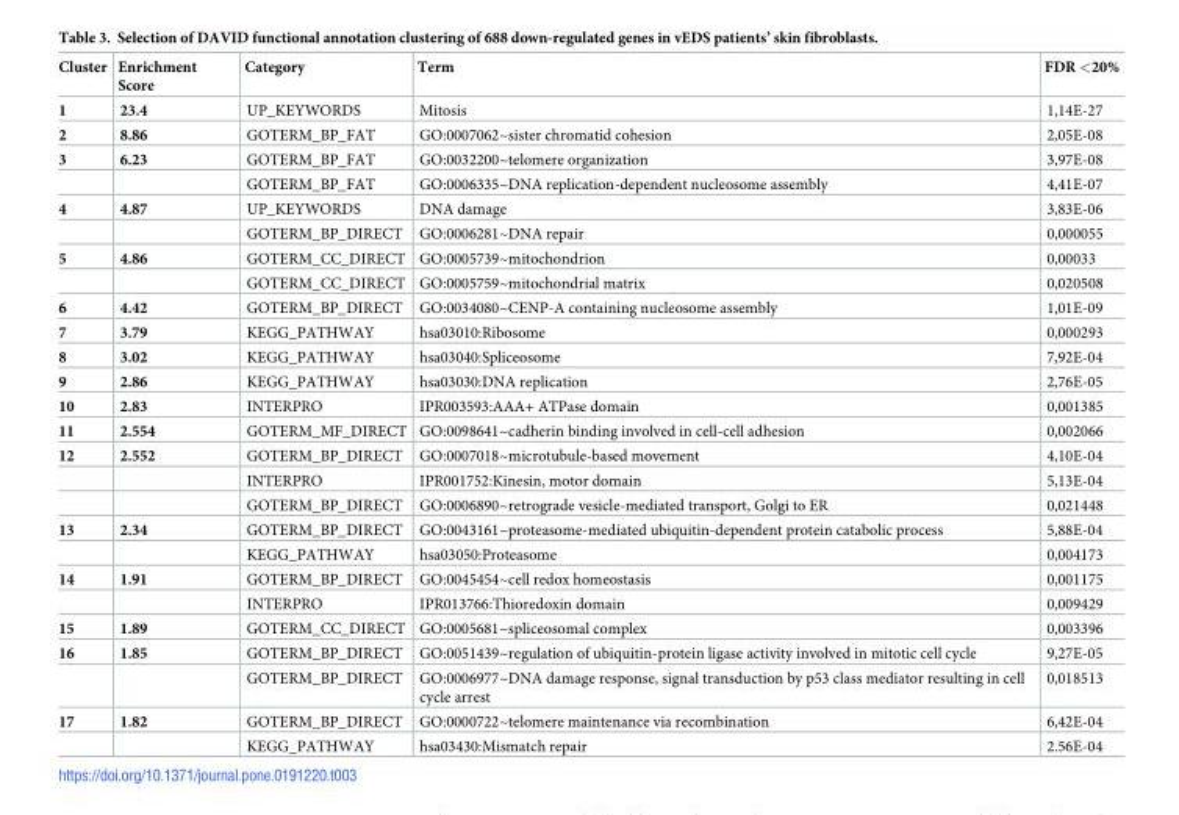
<table><thead><tr><td>Cluster</td><td>Enrichment Score</td><td>Category</td><td>Term</td><td>FDR &lt;20%</td></tr></thead><tbody><tr><td>1</td><td>23.4</td><td>UP_KEYWORDS</td><td>Mitosis</td><td>1,14E-27</td></tr><tr><td>2</td><td>8.86</td><td>GOTERM_BP_FAT</td><td>GO:0007062~sister chromatid cohesion</td><td>2,05E-08</td></tr><tr><td rowspan="2">3</td><td>6.23</td><td>GOTERM_BP_FAT</td><td>GO:0032200~telomere organization</td><td>3,97E-08</td></tr><tr><td></td><td>GOTERM_BP_FAT</td><td>GO:0006335~DNA replication-dependent nucleosome assembly</td><td>4,41E-07</td></tr><tr><td rowspan="2">4</td><td>4.87</td><td>UP_KEYWORDS</td><td>DNA damage</td><td>3,83E-06</td></tr><tr><td></td><td>GOTERM_BP_DIRECT</td><td>GO:0006281~DNA repair</td><td>0,000055</td></tr><tr><td rowspan="2">5</td><td>4.86</td><td>GOTERM_CC_DIRECT</td><td>GO:0005739~mitochondrion</td><td>0,00033</td></tr><tr><td></td><td>GOTERM_CC_DIRECT</td><td>GO:0005759~mitochondrial matrix</td><td>0,020508</td></tr><tr><td>6</td><td>4.42</td><td>GOTERM_BP_DIRECT</td><td>GO:0034080~CENP-A containing nucleosome assembly</td><td>1,01E-09</td></tr><tr><td>7</td><td>3.79</td><td>KEGG_PATHWAY</td><td>hsa03010:Ribosome</td><td>0,000293</td></tr><tr><td>8</td><td>3.02</td><td>KEGG_PATHWAY</td><td>hsa03040:Spliceosome</td><td>7,92E-04</td></tr><tr><td>9</td><td>2.86</td><td>KEGG_PATHWAY</td><td>hsa03030:DNA replication</td><td>2,76E-05</td></tr><tr><td>10</td><td>2.83</td><td>INTERPRO</td><td>IPR003593:AAA+ ATPase domain</td><td>0,001385</td></tr><tr><td>11</td><td>2.554</td><td>GOTERM_MF_DIRECT</td><td>GO:0098641~cadherin binding involved in cell-cell adhesion</td><td>0,002066</td></tr><tr><td rowspan="3">12</td><td>2.552</td><td>GOTERM_BP_DIRECT</td><td>GO:0007018~microtubule-based movement</td><td>4,10E-04</td></tr><tr><td></td><td>INTERPRO</td><td>IPR001752:Kinesin, motor domain</td><td>5,13E-04</td></tr><tr><td></td><td>GOTERM_BP_DIRECT</td><td>GO:0006890~retrograde vesicle-mediated transport, Golgi to ER</td><td>0,021448</td></tr><tr><td rowspan="2">13</td><td>2.34</td><td>GOTERM_BP_DIRECT</td><td>GO:0043161~proteasome-mediated ubiquitin-dependent protein catabolic process</td><td>5,88E-04</td></tr><tr><td></td><td>KEGG_PATHWAY</td><td>hsa03050:Proteasome</td><td>0,004173</td></tr><tr><td rowspan="2">14</td><td>1.91</td><td>GOTERM_BP_DIRECT</td><td>GO:0045454~cell redox homeostasis</td><td>0,001175</td></tr><tr><td></td><td>INTERPRO</td><td>IPR013766:Thioredoxin domain</td><td>0,009429</td></tr><tr><td>15</td><td>1.89</td><td>GOTERM_CC_DIRECT</td><td>GO:0005681~spliceosomal complex</td><td>0,003396</td></tr><tr><td rowspan="2">16</td><td>1.85</td><td>GOTERM_BP_DIRECT</td><td>GO:0051439~regulation of ubiquitin-protein ligase activity involved in mitotic cell cycle</td><td>9,27E-05</td></tr><tr><td></td><td>GOTERM_BP_DIRECT</td><td>GO:0006977~DNA damage response, signal transduction by p53 class mediator resulting in cell cycle arrest</td><td>0,018513</td></tr><tr><td rowspan="2">17</td><td>1.82</td><td>GOTERM_BP_DIRECT</td><td>GO:0000722~telomere maintenance via recombination</td><td>6,42E-04</td></tr><tr><td></td><td>KEGG_PATHWAY</td><td>hsa03430:Mismatch repair</td><td>2.56E-04</td></tr></tbody></table>